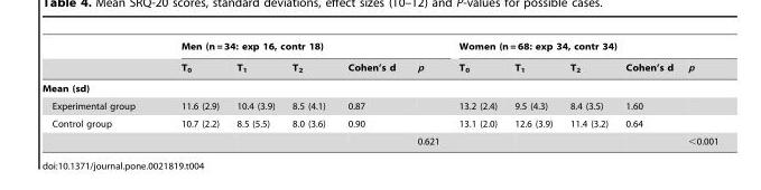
<table><thead><tr><td rowspan="2"></td><td colspan="5">Men (n = 34: exp 16, contr 18)</td><td colspan="5">Women (n = 68: exp 34, contr 34)</td></tr><tr><td>T<sub>0</sub></td><td>T<sub>1</sub></td><td>T<sub>2</sub></td><td>Cohen’s d</td><td>p</td><td>T<sub>0</sub></td><td>T<sub>1</sub></td><td>T<sub>2</sub></td><td>Cohen’s d</td><td>p</td></tr></thead><tbody><tr><td colspan="11">Mean (sd)</td></tr><tr><td>Experimental group</td><td>11.6 (2.9)</td><td>10.4 (3.9)</td><td>8.5 (4.1)</td><td>0.87</td><td></td><td>13.2 (2.4)</td><td>9.5 (4.3)</td><td>8.4 (3.5)</td><td>1.60</td><td></td></tr><tr><td rowspan="2">Control group</td><td>10.7 (2.2)</td><td>8.5 (5.5)</td><td>8.0 (3.6)</td><td>0.90</td><td></td><td>13.1 (2.0)</td><td>12.6 (3.9)</td><td>11.4 (3.2)</td><td>0.64</td><td></td></tr><tr><td></td><td></td><td></td><td></td><td>0.621</td><td></td><td></td><td></td><td></td><td>&lt;0.001</td></tr></tbody></table>